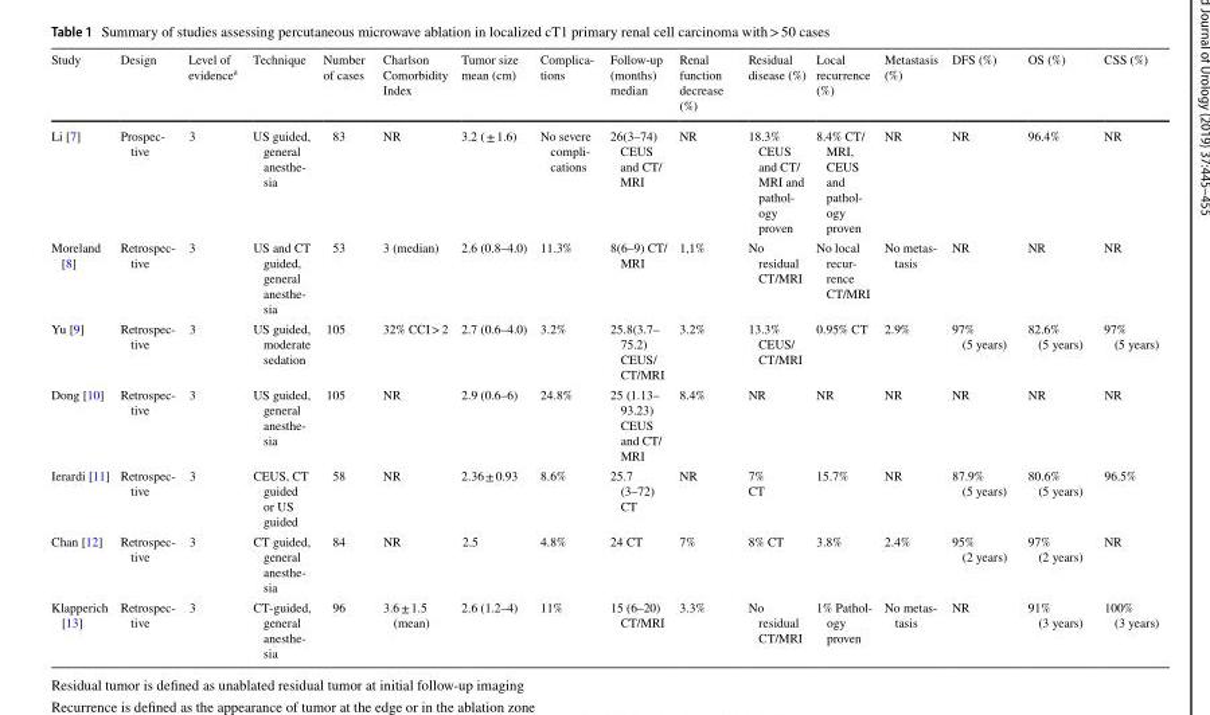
<table><thead><tr><td>Study</td><td>Design</td><td>Level of evidence<sup>a</sup></td><td>Technique</td><td>Number of cases</td><td>Charlson Comorbidity Index</td><td>Tumor size mean (cm)</td><td>Complica- tions</td><td>Follow-up (months) median</td><td>Renal function decrease (%)</td><td>Residual disease (%)</td><td>Local recurrence (%)</td><td>Metastasis (%)</td><td>DFS (%)</td><td>OS (%)</td><td>CSS (%)</td></tr></thead><tbody><tr><td>Li [7]</td><td>Prospec- tive</td><td>3</td><td>US guided, general anesthe- sia</td><td>83</td><td>NR</td><td>3.2 ( ± 1.6)</td><td>No severe compli- cations</td><td>26(3–74) CEUS and CT/ MRI</td><td>NR</td><td>18.3% CEUS and CT/ MRI and pathol- ogy proven</td><td>8.4% CT/ MRI, CEUS and pathol- ogy proven</td><td>NR</td><td>NR</td><td>96.4%</td><td>NR</td></tr><tr><td>Moreland [8]</td><td>Retrospec- tive</td><td>3</td><td>US and CT guided, general anesthe- sia</td><td>53</td><td>3 (median)</td><td>2.6 (0.8–4.0)</td><td>11.3%</td><td>8(6–9) CT/ MRI</td><td>1,1%</td><td>No residual CT/MRI</td><td>No local recur- rence CT/MRI</td><td>No metas- tasis</td><td>NR</td><td>NR</td><td>NR</td></tr><tr><td>Yu [9]</td><td>Retrospec- tive</td><td>3</td><td>US guided, moderate sedation</td><td>105</td><td>32% CCI &gt; 2</td><td>2.7 (0.6–4.0)</td><td>3.2%</td><td>25.8(3.7– 75.2) CEUS/ CT/MRI</td><td>3.2%</td><td>13.3% CEUS/ CT/MRI</td><td>0.95% CT</td><td>2.9%</td><td>97% (5 years)</td><td>82.6% (5 years)</td><td>97% (5 years)</td></tr><tr><td>Dong [10]</td><td>Retrospec- tive</td><td>3</td><td>US guided, general anesthe- sia</td><td>105</td><td>NR</td><td>2.9 (0.6–6)</td><td>24.8%</td><td>25 (1.13– 93.23) CEUS and CT/ MRI</td><td>8.4%</td><td>NR</td><td>NR</td><td>NR</td><td>NR</td><td>NR</td><td>NR</td></tr><tr><td>Ierardi [11]</td><td>Retrospec- tive</td><td>3</td><td>CEUS, CT guided or US guided</td><td>58</td><td>NR</td><td>2.36 ± 0.93</td><td>8.6%</td><td>25.7 (3–72) CT</td><td>NR</td><td>7% CT</td><td>15.7%</td><td>NR</td><td>87.9% (5 years)</td><td>80.6% (5 years)</td><td>96.5%</td></tr><tr><td>Chan [12]</td><td>Retrospec- tive</td><td>3</td><td>CT guided, general anesthe- sia</td><td>84</td><td>NR</td><td>2.5</td><td>4.8%</td><td>24 CT</td><td>7%</td><td>8% CT</td><td>3.8%</td><td>2.4%</td><td>95% (2 years)</td><td>97% (2 years)</td><td>NR</td></tr><tr><td>Klapperich [13]</td><td>Retrospec- tive</td><td>3</td><td>CT-guided, general anesthe- sia</td><td>96</td><td>3.6 ± 1.5 (mean)</td><td>2.6 (1.2–4)</td><td>11%</td><td>15 (6–20) CT/MRI</td><td>3.3%</td><td>No residual CT/MRI</td><td>1% Pathol- ogy proven</td><td>No metas- tasis</td><td>NR</td><td>91% (3 years)</td><td>100% (3 years)</td></tr></tbody></table>